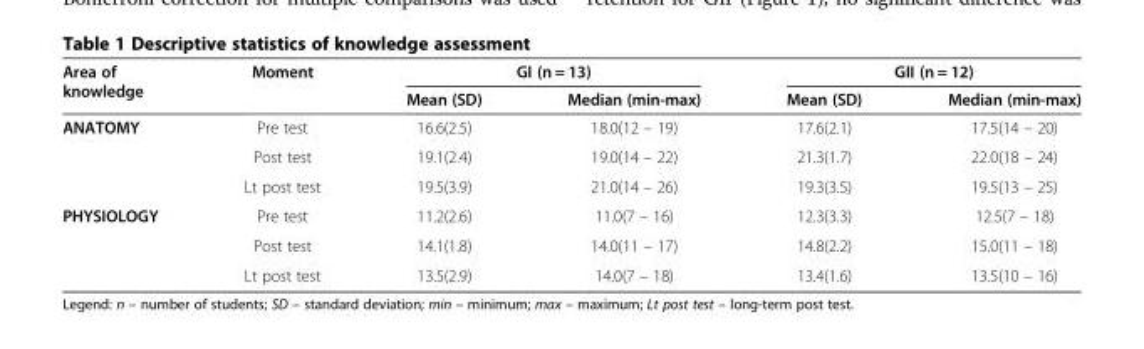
<table><thead><tr><td rowspan="2">Area of knowledge</td><td rowspan="2">Moment</td><td colspan="2">GI (n = 13)</td><td colspan="2">GII (n = 12)</td></tr><tr><td>Mean (SD)</td><td>Median (min-max)</td><td>Mean (SD)</td><td>Median (min-max)</td></tr></thead><tbody><tr><td rowspan="3">ANATOMY</td><td>Pre test</td><td>16.6(2.5)</td><td>18.0(12 – 19)</td><td>17.6(2.1)</td><td>17.5(14 – 20)</td></tr><tr><td>Post test</td><td>19.1(2.4)</td><td>19.0(14 – 22)</td><td>21.3(1.7)</td><td>22.0(18 – 24)</td></tr><tr><td>Lt post test</td><td>19.5(3.9)</td><td>21.0(14 – 26)</td><td>19.3(3.5)</td><td>19.5(13 – 25)</td></tr><tr><td rowspan="3">PHYSIOLOGY</td><td>Pre test</td><td>11.2(2.6)</td><td>11.0(7 – 16)</td><td>12.3(3.3)</td><td>12.5(7 – 18)</td></tr><tr><td>Post test</td><td>14.1(1.8)</td><td>14.0(11 – 17)</td><td>14.8(2.2)</td><td>15.0(11 – 18)</td></tr><tr><td>Lt post test</td><td>13.5(2.9)</td><td>14.0(7 – 18)</td><td>13.4(1.6)</td><td>13.5(10 – 16)</td></tr></tbody></table>